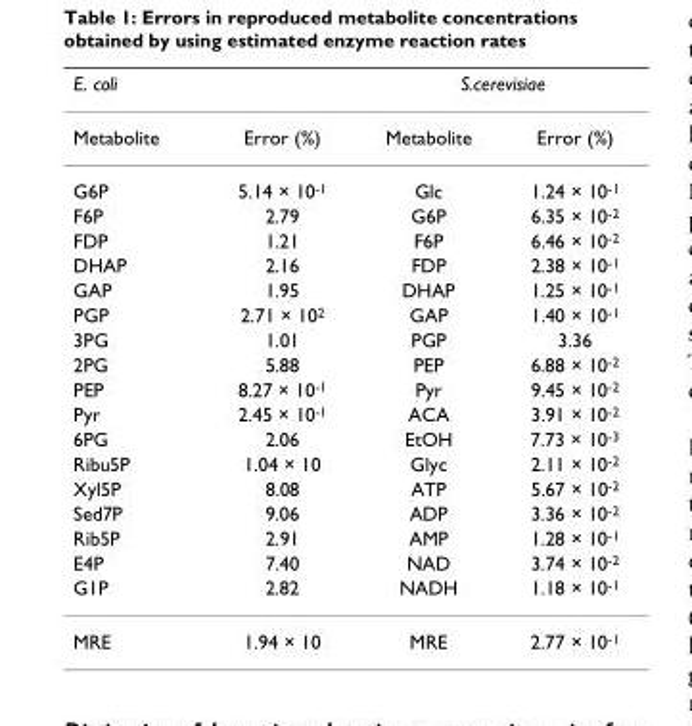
<table><thead><tr><td colspan="2">E. coli</td><td colspan="2">S.cerevisiae</td></tr><tr><td>Metabolite</td><td>Error (%)</td><td>Metabolite</td><td>Error (%)</td></tr></thead><tbody><tr><td>G6P</td><td>5.14 × 10<sup>-1</sup></td><td>Glc</td><td>1.24 × 10<sup>-1</sup></td></tr><tr><td>F6P</td><td>2.79</td><td>G6P</td><td>6.35 × 10<sup>-2</sup></td></tr><tr><td>FDP</td><td>1.21</td><td>F6P</td><td>6.46 × 10<sup>-2</sup></td></tr><tr><td>DHAP</td><td>2.16</td><td>FDP</td><td>2.38 × 10<sup>-1</sup></td></tr><tr><td>GAP</td><td>1.95</td><td>DHAP</td><td>1.25 × 10<sup>-1</sup></td></tr><tr><td>PGP</td><td>2.71 × 10<sup>2</sup></td><td>GAP</td><td>1.40 × 10<sup>-1</sup></td></tr><tr><td>3PG</td><td>1.01</td><td>PGP</td><td>3.36</td></tr><tr><td>2PG</td><td>5.88</td><td>PEP</td><td>6.88 × 10<sup>-2</sup></td></tr><tr><td>PEP</td><td>8.27 × 10<sup>-1</sup></td><td>Pyr</td><td>9.45 × 10<sup>-2</sup></td></tr><tr><td>Pyr</td><td>2.45 × 10<sup>-1</sup></td><td>ACA</td><td>3.91 × 10<sup>-2</sup></td></tr><tr><td>6PG</td><td>2.06</td><td>EtOH</td><td>7.73 × 10<sup>-3</sup></td></tr><tr><td>Ribu5P</td><td>1.04 × 10</td><td>Glyc</td><td>2.11 × 10<sup>-2</sup></td></tr><tr><td>Xyl5P</td><td>8.08</td><td>ATP</td><td>5.67 × 10<sup>-2</sup></td></tr><tr><td>Sed7P</td><td>9.06</td><td>ADP</td><td>3.36 × 10<sup>-2</sup></td></tr><tr><td>Rib5P</td><td>2.91</td><td>AMP</td><td>1.28 × 10<sup>-1</sup></td></tr><tr><td>E4P</td><td>7.40</td><td>NAD</td><td>3.74 × 10<sup>-2</sup></td></tr><tr><td>G1P</td><td>2.82</td><td>NADH</td><td>1.18 × 10<sup>-1</sup></td></tr><tr><td>MRE</td><td>1.94 × 10</td><td>MRE</td><td>2.77 × 10<sup>-1</sup></td></tr></tbody></table>